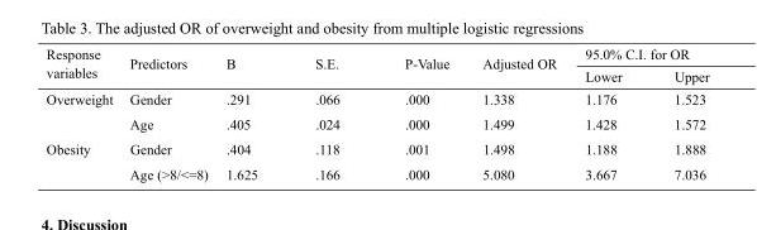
<table><thead><tr><td rowspan="2">Response variables</td><td rowspan="2">Predictors</td><td rowspan="2">B</td><td rowspan="2">S.E.</td><td rowspan="2">P-Value</td><td rowspan="2">Adjusted OR</td><td colspan="2">95.0% C.I. for OR</td></tr><tr><td>Lower</td><td>Upper</td></tr></thead><tbody><tr><td rowspan="2">Overweight</td><td>Gender</td><td>.291</td><td>.066</td><td>.000</td><td>1.338</td><td>1.176</td><td>1.523</td></tr><tr><td>Age</td><td>.405</td><td>.024</td><td>.000</td><td>1.499</td><td>1.428</td><td>1.572</td></tr><tr><td rowspan="2">Obesity</td><td>Gender</td><td>.404</td><td>.118</td><td>.001</td><td>1.498</td><td>1.188</td><td>1.888</td></tr><tr><td>Age (&gt;8/&lt;=8)</td><td>1.625</td><td>.166</td><td>.000</td><td>5.080</td><td>3.667</td><td>7.036</td></tr></tbody></table>